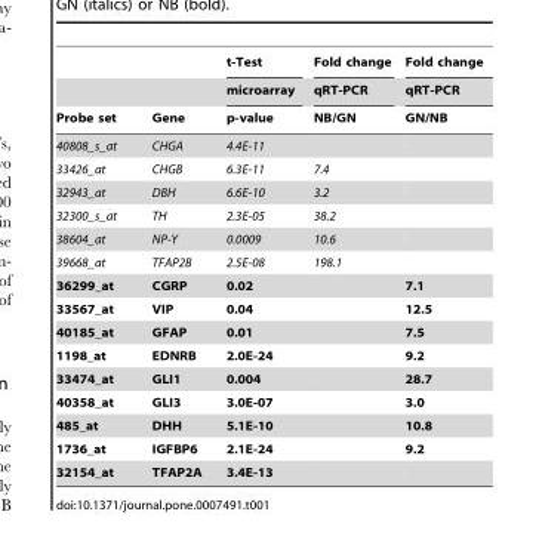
<table><thead><tr><td rowspan="3">Probe set</td><td rowspan="3">Gene</td><td rowspan="3">t-Test microarray p-value</td><td rowspan="3">Fold change qRT-PCR NB/GN</td><td rowspan="3">Fold change qRT-PCR GN/NB</td></tr><tr></tr><tr></tr></thead><tbody><tr><td>40808_s_at</td><td>CHGA</td><td>4.4E-11</td><td></td><td></td></tr><tr><td>33426_at</td><td>CHGB</td><td>6.3E-11</td><td>7.4</td><td></td></tr><tr><td>32943_at</td><td>DBH</td><td>6.6E-10</td><td>3.2</td><td></td></tr><tr><td>32300_s_at</td><td>TH</td><td>2.3E-05</td><td>38.2</td><td></td></tr><tr><td>38604_at</td><td>NP-Y</td><td>0.0009</td><td>10.6</td><td></td></tr><tr><td>39668_at</td><td>TFAP2B</td><td>2.5E-08</td><td>198.1</td><td></td></tr><tr><td>36299_at</td><td>CGRP</td><td>0.02</td><td></td><td>7.1</td></tr><tr><td>33567_at</td><td>VIP</td><td>0.04</td><td></td><td>12.5</td></tr><tr><td>40185_at</td><td>GFAP</td><td>0.01</td><td></td><td>7.5</td></tr><tr><td>1198_at</td><td>EDNRB</td><td>2.0E-24</td><td></td><td>9.2</td></tr><tr><td>33474_at</td><td>GLI1</td><td>0.004</td><td></td><td>28.7</td></tr><tr><td>40358_at</td><td>GLI3</td><td>3.0E-07</td><td></td><td>3.0</td></tr><tr><td>485_at</td><td>DHH</td><td>5.1E-10</td><td></td><td>10.8</td></tr><tr><td>1736_at</td><td>IGFBP6</td><td>2.1E-24</td><td></td><td>9.2</td></tr><tr><td>32154_at</td><td>TFAP2A</td><td>3.4E-13</td><td></td><td></td></tr></tbody></table>